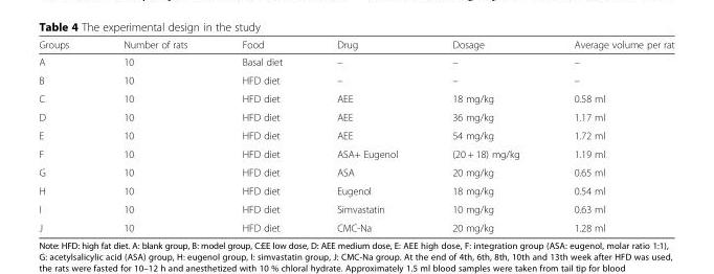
<table><thead><tr><td>Groups</td><td>Number of rats</td><td>Food</td><td>Drug</td><td>Dosage</td><td>Average volume per rat</td></tr></thead><tbody><tr><td>A</td><td>10</td><td>Basal diet</td><td>–</td><td>–</td><td>–</td></tr><tr><td>B</td><td>10</td><td>HFD diet</td><td>–</td><td>–</td><td>–</td></tr><tr><td>C</td><td>10</td><td>HFD diet</td><td>AEE</td><td>18 mg/kg</td><td>0.58 ml</td></tr><tr><td>D</td><td>10</td><td>HFD diet</td><td>AEE</td><td>36 mg/kg</td><td>1.17 ml</td></tr><tr><td>E</td><td>10</td><td>HFD diet</td><td>AEE</td><td>54 mg/kg</td><td>1.72 ml</td></tr><tr><td>F</td><td>10</td><td>HFD diet</td><td>ASA+ Eugenol</td><td>(20 + 18) mg/kg</td><td>1.19 ml</td></tr><tr><td>G</td><td>10</td><td>HFD diet</td><td>ASA</td><td>20 mg/kg</td><td>0.65 ml</td></tr><tr><td>H</td><td>10</td><td>HFD diet</td><td>Eugenol</td><td>18 mg/kg</td><td>0.54 ml</td></tr><tr><td>I</td><td>10</td><td>HFD diet</td><td>Simvastatin</td><td>10 mg/kg</td><td>0.63 ml</td></tr><tr><td>J</td><td>10</td><td>HFD diet</td><td>CMC-Na</td><td>20 mg/kg</td><td>1.28 ml</td></tr></tbody></table>